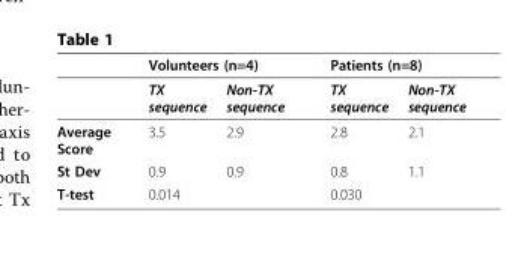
<table><thead><tr><td rowspan="2"></td><td colspan="2">Volunteers (n=4)</td><td colspan="2">Patients (n=8)</td></tr><tr><td>TX sequence</td><td>Non-TX sequence</td><td>TX sequence</td><td>Non-TX sequence</td></tr></thead><tbody><tr><td>Average Score</td><td>3.5</td><td>2.9</td><td>2.8</td><td>2.1</td></tr><tr><td>St Dev</td><td>0.9</td><td>0.9</td><td>0.8</td><td>1.1</td></tr><tr><td>T-test</td><td colspan="2">0.014</td><td colspan="2">0.030</td></tr></tbody></table>